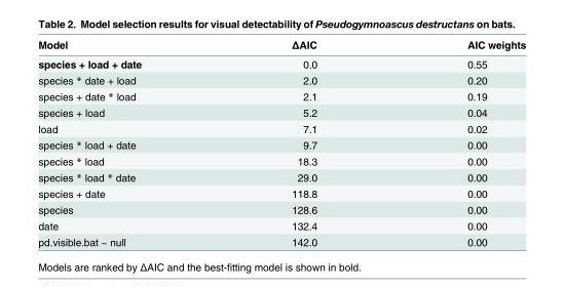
<table><thead><tr><td>Model</td><td>ΔAIC</td><td>AIC weights</td></tr></thead><tbody><tr><td>species + load + date</td><td>0.0</td><td>0.55</td></tr><tr><td>species * date + load</td><td>2.0</td><td>0.20</td></tr><tr><td>species + date * load</td><td>2.1</td><td>0.19</td></tr><tr><td>species + load</td><td>5.2</td><td>0.04</td></tr><tr><td>load</td><td>7.1</td><td>0.02</td></tr><tr><td>species * load + date</td><td>9.7</td><td>0.00</td></tr><tr><td>species * load</td><td>18.3</td><td>0.00</td></tr><tr><td>species * load * date</td><td>29.0</td><td>0.00</td></tr><tr><td>species + date</td><td>118.8</td><td>0.00</td></tr><tr><td>species</td><td>128.6</td><td>0.00</td></tr><tr><td>date</td><td>132.4</td><td>0.00</td></tr><tr><td>pd.visible.bat ~ null</td><td>142.0</td><td>0.00</td></tr></tbody></table>